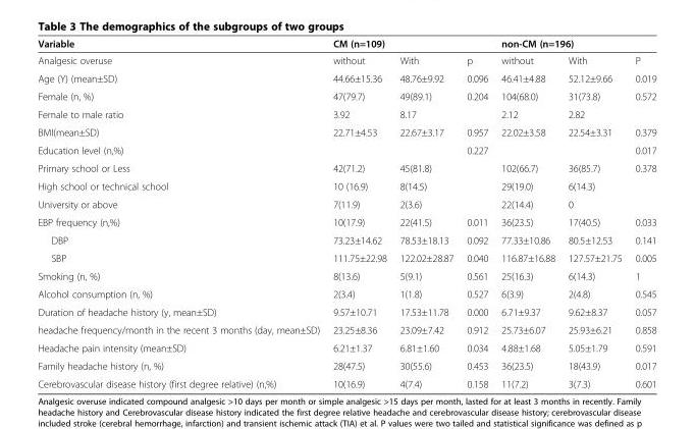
<table><thead><tr><td rowspan="2">Variable Analgesic overuse</td><td colspan="3">CM (n=109)</td><td colspan="3">non-CM (n=196)</td></tr><tr><td>without</td><td>With</td><td>p</td><td>without</td><td>With</td><td>P</td></tr></thead><tbody><tr><td>Age (Y) (mean±SD)</td><td>44.66±15.36</td><td>48.76±9.92</td><td>0.096</td><td>46.41±4.88</td><td>52.12±9.66</td><td>0.019</td></tr><tr><td>Female (n, %)</td><td>47(79.7)</td><td>49(89.1)</td><td>0.204</td><td>104(68.0)</td><td>31(73.8)</td><td>0.572</td></tr><tr><td>Female to male ratio</td><td>3.92</td><td>8.17</td><td></td><td>2.12</td><td>2.82</td><td></td></tr><tr><td>BMI(mean±SD)</td><td>22.71±4.53</td><td>22.67±3.17</td><td>0.957</td><td>22.02±3.58</td><td>22.54±3.31</td><td>0.379</td></tr><tr><td>Education level (n,%)</td><td></td><td></td><td>0.227</td><td></td><td></td><td>0.017</td></tr><tr><td>Primary school or Less</td><td>42(71.2)</td><td>45(81.8)</td><td></td><td>102(66.7)</td><td>36(85.7)</td><td>0.378</td></tr><tr><td>High school or technical school</td><td>10 (16.9)</td><td>8(14.5)</td><td></td><td>29(19.0)</td><td>6(14.3)</td><td></td></tr><tr><td>University or above</td><td>7(11.9)</td><td>2(3.6)</td><td></td><td>22(14.4)</td><td>0</td><td></td></tr><tr><td>EBP frequency (n,%)</td><td>10(17.9)</td><td>22(41.5)</td><td>0.011</td><td>36(23.5)</td><td>17(40.5)</td><td>0.033</td></tr><tr><td>DBP</td><td>73.23±14.62</td><td>78.53±18.13</td><td>0.092</td><td>77.33±10.86</td><td>80.5±12.53</td><td>0.141</td></tr><tr><td>SBP</td><td>111.75±22.98</td><td>122.02±28.87</td><td>0.040</td><td>116.87±16.88</td><td>127.57±21.75</td><td>0.005</td></tr><tr><td>Smoking (n, %)</td><td>8(13.6)</td><td>5(9.1)</td><td>0.561</td><td>25(16.3)</td><td>6(14.3)</td><td>1</td></tr><tr><td>Alcohol consumption (n, %)</td><td>2(3.4)</td><td>1(1.8)</td><td>0.527</td><td>6(3.9)</td><td>2(4.8)</td><td>0.545</td></tr><tr><td>Duration of headache history (y, mean±SD)</td><td>9.57±10.71</td><td>17.53±11.78</td><td>0.000</td><td>6.71±9.37</td><td>9.62±8.37</td><td>0.057</td></tr><tr><td>headache frequency/month in the recent 3 months (day, mean±SD)</td><td>23.25±8.36</td><td>23.09±7.42</td><td>0.912</td><td>25.73±6.07</td><td>25.93±6.21</td><td>0.858</td></tr><tr><td>Headache pain intensity (mean±SD)</td><td>6.21±1.37</td><td>6.81±1.60</td><td>0.034</td><td>4.88±1.68</td><td>5.05±1.79</td><td>0.591</td></tr><tr><td>Family headache history (n, %)</td><td>28(47.5)</td><td>30(55.6)</td><td>0.453</td><td>36(23.5)</td><td>18(43.9)</td><td>0.017</td></tr><tr><td>Cerebrovascular disease history (first degree relative) (n,%)</td><td>10(16.9)</td><td>4(7.4)</td><td>0.158</td><td>11(7.2)</td><td>3(7.3)</td><td>0.601</td></tr></tbody></table>